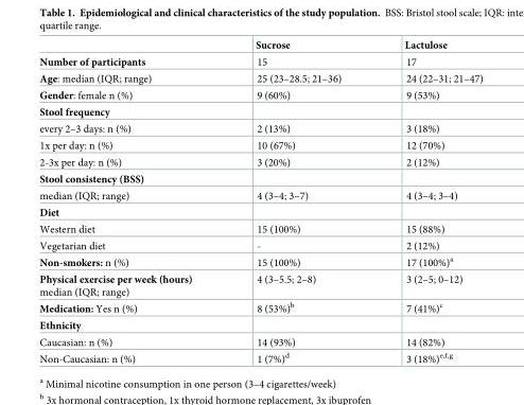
<table><thead><tr><td></td><td>Sucrose</td><td>Lactulose</td></tr></thead><tbody><tr><td>Number of participants</td><td>15</td><td>17</td></tr><tr><td>Age: median (IQR; range)</td><td>25 (23–28.5; 21–36)</td><td>24 (22–31; 21–47)</td></tr><tr><td>Gender: female n (%)</td><td>9 (60%)</td><td>9 (53%)</td></tr><tr><td colspan="3">Stool frequency</td></tr><tr><td>every 2–3 days: n (%)</td><td>2 (13%)</td><td>3 (18%)</td></tr><tr><td>1x per day: n (%)</td><td>10 (67%)</td><td>12 (70%)</td></tr><tr><td>2-3x per day: n (%)</td><td>3 (20%)</td><td>2 (12%)</td></tr><tr><td colspan="3">Stool consistency (BSS)</td></tr><tr><td>median (IQR; range)</td><td>4 (3–4; 3–7)</td><td>4 (3–4; 3–4)</td></tr><tr><td colspan="3">Diet</td></tr><tr><td>Western diet</td><td>15 (100%)</td><td>15 (88%)</td></tr><tr><td>Vegetarian diet</td><td>-</td><td>2 (12%)</td></tr><tr><td>Non-smokers: n (%)</td><td>15 (100%)</td><td>17 (100%)<sup>a</sup></td></tr><tr><td>Physical exercise per week (hours) median (IQR; range)</td><td>4 (3–5.5; 2–8)</td><td>3 (2–5; 0–12)</td></tr><tr><td>Medication: Yes n (%)</td><td>8 (53%)<sup>b</sup></td><td>7 (41%)<sup>c</sup></td></tr><tr><td colspan="3">Ethnicity</td></tr><tr><td>Caucasian: n (%)</td><td>14 (93%)</td><td>14 (82%)</td></tr><tr><td>Non-Caucasian: n (%)</td><td>1 (7%)<sup>d</sup></td><td>3 (18%)<sup>e,f,g</sup></td></tr></tbody></table>